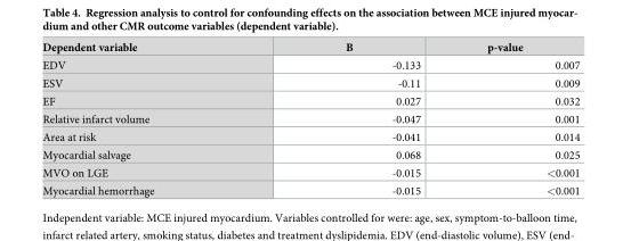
<table><thead><tr><td>Dependent variable</td><td>B</td><td>p-value</td></tr></thead><tbody><tr><td>EDV</td><td>-0.133</td><td>0.007</td></tr><tr><td>ESV</td><td>-0.11</td><td>0.009</td></tr><tr><td>EF</td><td>0.027</td><td>0.032</td></tr><tr><td>Relative infarct volume</td><td>-0.047</td><td>0.001</td></tr><tr><td>Area at risk</td><td>-0.041</td><td>0.014</td></tr><tr><td>Myocardial salvage</td><td>0.068</td><td>0.025</td></tr><tr><td>MVO on LGE</td><td>-0.015</td><td>&lt;0.001</td></tr><tr><td>Myocardial hemorrhage</td><td>-0.015</td><td>&lt;0.001</td></tr></tbody></table>